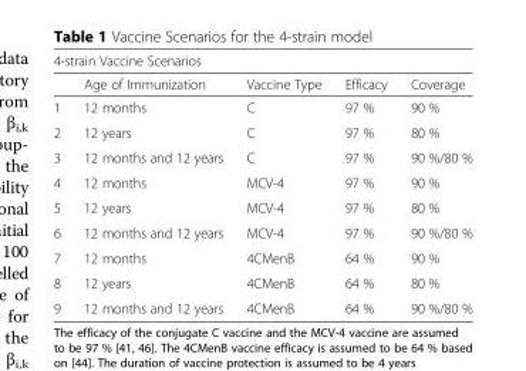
<table><thead><tr><td colspan="5">4-strain Vaccine Scenarios</td></tr><tr><td></td><td>Age of Immunization</td><td>Vaccine Type</td><td>Efficacy</td><td>Coverage</td></tr></thead><tbody><tr><td>1</td><td>12 months</td><td>C</td><td>97 %</td><td>90 %</td></tr><tr><td>2</td><td>12 years</td><td>C</td><td>97 %</td><td>80 %</td></tr><tr><td>3</td><td>12 months and 12 years</td><td>C</td><td>97 %</td><td>90 %/80 %</td></tr><tr><td>4</td><td>12 months</td><td>MCV-4</td><td>97 %</td><td>90 %</td></tr><tr><td>5</td><td>12 years</td><td>MCV-4</td><td>97 %</td><td>80 %</td></tr><tr><td>6</td><td>12 months and 12 years</td><td>MCV-4</td><td>97 %</td><td>90 %/80 %</td></tr><tr><td>7</td><td>12 months</td><td>4CMenB</td><td>64 %</td><td>90 %</td></tr><tr><td>8</td><td>12 years</td><td>4CMenB</td><td>64 %</td><td>80 %</td></tr><tr><td>9</td><td>12 months and 12 years</td><td>4CMenB</td><td>64 %</td><td>90 %/80 %</td></tr></tbody></table>